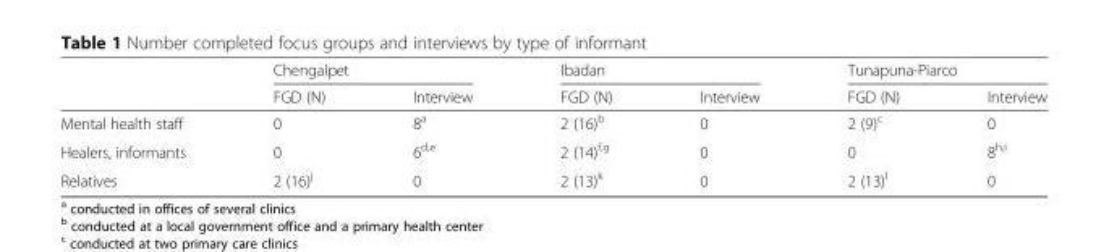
<table><thead><tr><td rowspan="2"></td><td colspan="2">Chengalpet</td><td colspan="2">Ibadan</td><td colspan="2">Tunapuna-Piarco</td></tr><tr><td>FGD (N)</td><td>Interview</td><td>FGD (N)</td><td>Interview</td><td>FGD (N)</td><td>Interview</td></tr></thead><tbody><tr><td>Mental health staff</td><td>0</td><td>8<sup>a</sup></td><td>2 (16)<sup>b</sup></td><td>0</td><td>2 (9)<sup>c</sup></td><td>0</td></tr><tr><td>Healers, informants</td><td>0</td><td>6<sup>d,e</sup></td><td>2 (14)<sup>f,g</sup></td><td>0</td><td>0</td><td>8<sup>h,i</sup></td></tr><tr><td>Relatives</td><td>2 (16)<sup>j</sup></td><td>0</td><td>2 (13)<sup>k</sup></td><td>0</td><td>2 (13)<sup>l</sup></td><td>0</td></tr></tbody></table>